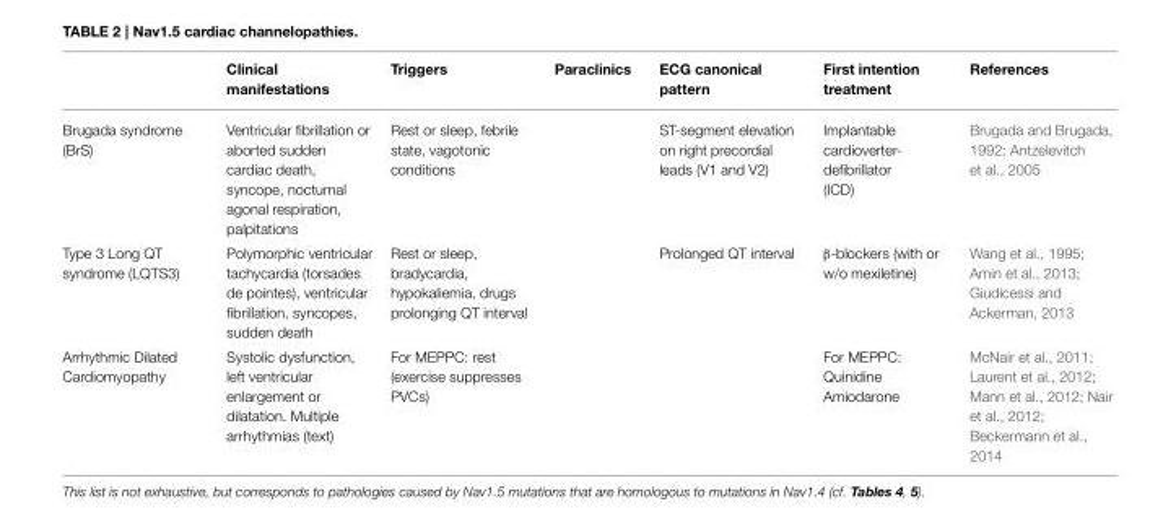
<table><thead><tr><td></td><td>Clinical manifestations</td><td>Triggers</td><td>Paraclinics</td><td>ECG canonical pattern</td><td>First intention treatment</td><td>References</td></tr></thead><tbody><tr><td>Brugada syndrome (BrS)</td><td>Ventricular fibrillation or aborted sudden cardiac death, syncope, nocturnal agonal respiration, palpitations</td><td>Rest or sleep, febrile state, vagotonic conditions</td><td></td><td>ST-segment elevation on right precordial leads (V1 and V2)</td><td>Implantable cardioverter- defibrillator (ICD)</td><td>Brugada and Brugada, 1992; Antzelevitch et al., 2005</td></tr><tr><td>Type 3 Long QT syndrome (LQTS3)</td><td>Polymorphic ventricular tachycardia (torsades de pointes), ventricular fibrillation, syncopes, sudden death</td><td>Rest or sleep, bradycardia, hypokaliemia, drugs prolonging QT interval</td><td></td><td>Prolonged QT interval</td><td>β-blockers (with or w/o mexiletine)</td><td>Wang et al., 1995; Amin et al., 2013; Giudicessi and Ackerman, 2013</td></tr><tr><td>Arrhythmic Dilated Cardiomyopathy</td><td>Systolic dysfunction, left ventricular enlargement or dilatation. Multiple arrhythmias (text)</td><td>For MEPPC: rest (exercise suppresses PVCs)</td><td></td><td></td><td>For MEPPC: Quinidine Amiodarone</td><td>McNair et al., 2011; Laurent et al., 2012; Mann et al., 2012; Nair et al., 2012; Beckermann et al., 2014</td></tr></tbody></table>